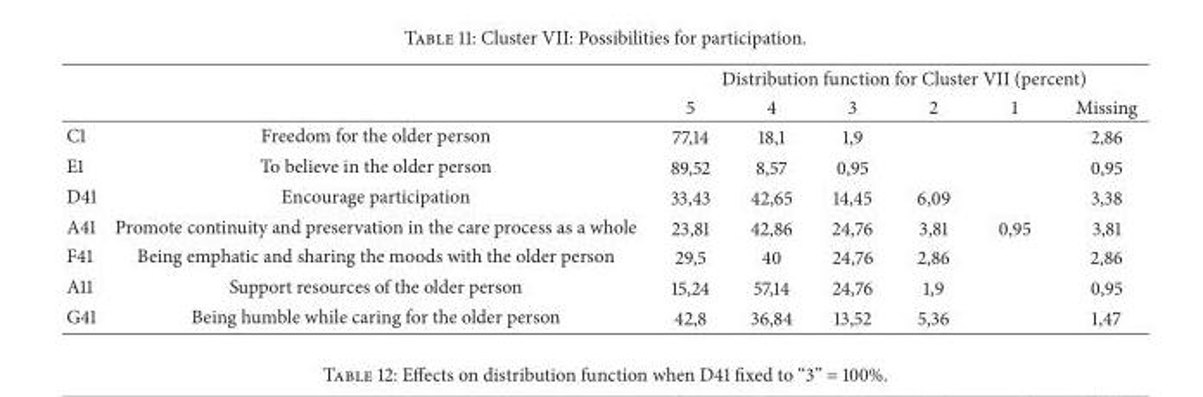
<table><thead><tr><td rowspan="2"></td><td rowspan="2"></td><td colspan="6">Distribution function for Cluster VII (percent)</td></tr><tr><td>5</td><td>4</td><td>3</td><td>2</td><td>1</td><td>Missing</td></tr></thead><tbody><tr><td>C1</td><td>Freedom for the older person</td><td>77,14</td><td>18,1</td><td>1,9</td><td></td><td></td><td>2,86</td></tr><tr><td>E1</td><td>To believe in the older person</td><td>89,52</td><td>8,57</td><td>0,95</td><td></td><td></td><td>0,95</td></tr><tr><td>D41</td><td>Encourage participation</td><td>33,43</td><td>42,65</td><td>14,45</td><td>6,09</td><td></td><td>3,38</td></tr><tr><td>A41</td><td>Promote continuity and preservation in the care process as a whole</td><td>23,81</td><td>42,86</td><td>24,76</td><td>3,81</td><td>0,95</td><td>3,81</td></tr><tr><td>F41</td><td>Being emphatic and sharing the moods with the older person</td><td>29,5</td><td>40</td><td>24,76</td><td>2,86</td><td></td><td>2,86</td></tr><tr><td>A11</td><td>Support resources of the older person</td><td>15,24</td><td>57,14</td><td>24,76</td><td>1,9</td><td></td><td>0,95</td></tr><tr><td>G41</td><td>Being humble while caring for the older person</td><td>42,8</td><td>36,84</td><td>13,52</td><td>5,36</td><td></td><td>1,47</td></tr></tbody></table>